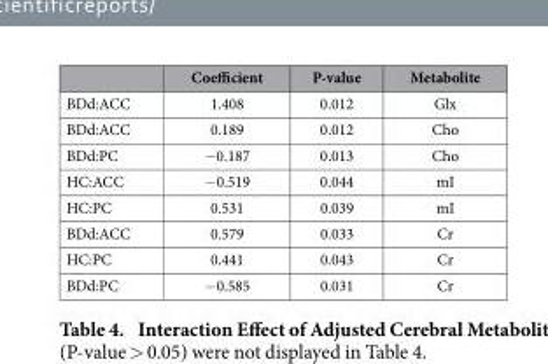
<table><thead><tr><td></td><td>Coefficient</td><td>P-value</td><td>Metabolite</td></tr></thead><tbody><tr><td>BDd:ACC</td><td>1.408</td><td>0.012</td><td>Glx</td></tr><tr><td>BDd:ACC</td><td>0.189</td><td>0.012</td><td>Cho</td></tr><tr><td>BDd:PC</td><td>− 0.187</td><td>0.013</td><td>Cho</td></tr><tr><td>HC:ACC</td><td>− 0.519</td><td>0.044</td><td>mI</td></tr><tr><td>HC:PC</td><td>0.531</td><td>0.039</td><td>mI</td></tr><tr><td>BDd:ACC</td><td>0.579</td><td>0.033</td><td>Cr</td></tr><tr><td>HC:PC</td><td>0.441</td><td>0.043</td><td>Cr</td></tr><tr><td>BDd:PC</td><td>− 0.585</td><td>0.031</td><td>Cr</td></tr></tbody></table>